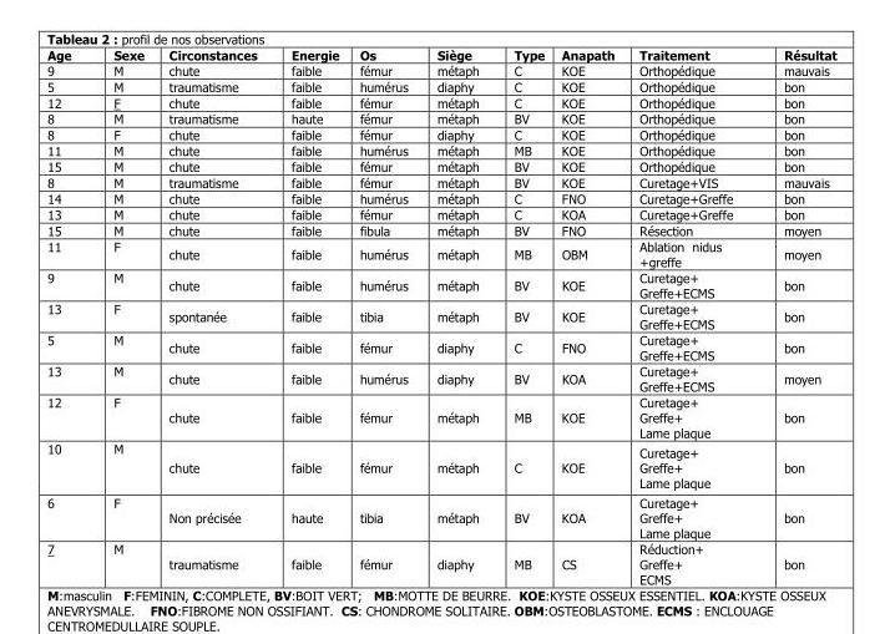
<table><thead><tr><td>Age</td><td>Sexe</td><td>Circonstances</td><td>Energie</td><td>Os</td><td>Siège</td><td>Type</td><td>Anapath</td><td>Traitement</td><td>Résultat</td></tr></thead><tbody><tr><td>9</td><td>M</td><td>chute</td><td>faible</td><td>fémur</td><td>métaph</td><td>C</td><td>KOE</td><td>Orthopédique</td><td>mauvais</td></tr><tr><td>5</td><td>M</td><td>traumatisme</td><td>faible</td><td>humérus</td><td>diaphy</td><td>C</td><td>KOE</td><td>Orthopédique</td><td>bon</td></tr><tr><td>12</td><td>F</td><td>chute</td><td>faible</td><td>fémur</td><td>métaph</td><td>C</td><td>KOE</td><td>Orthopédique</td><td>bon</td></tr><tr><td>8</td><td>M</td><td>traumatisme</td><td>haute</td><td>fémur</td><td>métaph</td><td>BV</td><td>KOE</td><td>Orthopédique</td><td>bon</td></tr><tr><td>8</td><td>F</td><td>chute</td><td>faible</td><td>fémur</td><td>diaphy</td><td>C</td><td>KOE</td><td>Orthopédique</td><td>bon</td></tr><tr><td>11</td><td>M</td><td>chute</td><td>faible</td><td>humérus</td><td>métaph</td><td>MB</td><td>KOE</td><td>Orthopédique</td><td>bon</td></tr><tr><td>15</td><td>M</td><td>chute</td><td>faible</td><td>fémur</td><td>métaph</td><td>BV</td><td>KOE</td><td>Orthopédique</td><td>bon</td></tr><tr><td>8</td><td>M</td><td>traumatisme</td><td>faible</td><td>fémur</td><td>métaph</td><td>BV</td><td>KOE</td><td>Curetage+VIS</td><td>mauvais</td></tr><tr><td>14</td><td>M</td><td>chute</td><td>faible</td><td>humérus</td><td>métaph</td><td>C</td><td>FNO</td><td>Curetage+Greffe</td><td>bon</td></tr><tr><td>13</td><td>M</td><td>chute</td><td>faible</td><td>fémur</td><td>métaph</td><td>C</td><td>KOA</td><td>Curetage+Greffe</td><td>bon</td></tr><tr><td>15</td><td>M</td><td>chute</td><td>faible</td><td>fibula</td><td>métaph</td><td>BV</td><td>FNO</td><td>Résection</td><td>moyen</td></tr><tr><td>11</td><td>F</td><td>chute</td><td>faible</td><td>humérus</td><td>métaph</td><td>MB</td><td>OBM</td><td>Ablation nidus +greffe</td><td>moyen</td></tr><tr><td>9</td><td>M</td><td>chute</td><td>faible</td><td>humérus</td><td>métaph</td><td>BV</td><td>KOE</td><td>Curetage+ Greffe+ECMS</td><td>bon</td></tr><tr><td>13</td><td>F</td><td>spontanée</td><td>faible</td><td>tibia</td><td>métaph</td><td>BV</td><td>KOE</td><td>Curetage+ Greffe+ECMS</td><td>bon</td></tr><tr><td>5</td><td>M</td><td>chute</td><td>faible</td><td>fémur</td><td>diaphy</td><td>C</td><td>FNO</td><td>Curetage+ Greffe+ECMS</td><td>bon</td></tr><tr><td>13</td><td>M</td><td>chute</td><td>faible</td><td>humérus</td><td>diaphy</td><td>BV</td><td>KOA</td><td>Curetage+ Greffe+ECMS</td><td>moyen</td></tr><tr><td>12</td><td>F</td><td>chute</td><td>faible</td><td>fémur</td><td>métaph</td><td>MB</td><td>KOE</td><td>Curetage+ Greffe+ Lame plaque</td><td>bon</td></tr><tr><td>10</td><td>M</td><td>chute</td><td>faible</td><td>fémur</td><td>métaph</td><td>C</td><td>KOE</td><td>Curetage+ Greffe+ Lame plaque</td><td>bon</td></tr><tr><td>6</td><td>F</td><td>Non précisée</td><td>haute</td><td>tibia</td><td>métaph</td><td>BV</td><td>KOA</td><td>Curetage+ Greffe+ Lame plaque</td><td>bon</td></tr><tr><td>7</td><td>M</td><td>traumatisme</td><td>faible</td><td>fémur</td><td>diaphy</td><td>MB</td><td>CS</td><td>Réduction+ Greffe+ ECMS</td><td>bon</td></tr></tbody></table>